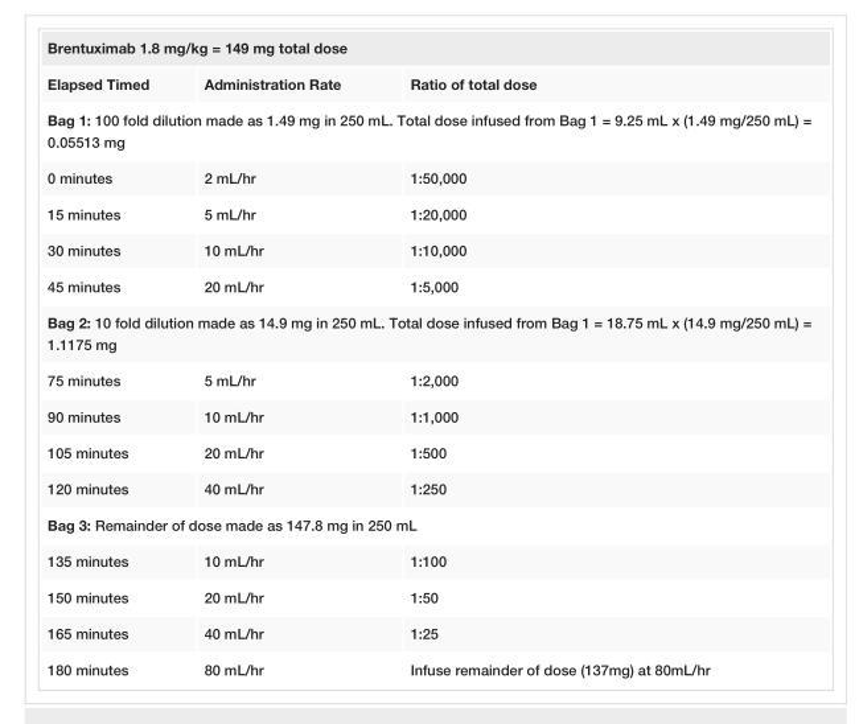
<table><tbody><tr><td colspan="3">Brentuximab 1.8 mg/kg = 149 mg total dose</td></tr><tr><td>Elapsed Timed</td><td>Administration Rate</td><td>Ratio of total dose</td></tr><tr><td colspan="3">Bag 1: 100 fold dilution made as 1.49 mg in 250 mL. Total dose infused from Bag 1 = 9.25 mL x (1.49 mg/250 mL) = 0.05513 mg</td></tr><tr><td>0 minutes</td><td>2 mL/hr</td><td>1:50,000</td></tr><tr><td>15 minutes</td><td>5 mL/hr</td><td>1:20,000</td></tr><tr><td>30 minutes</td><td>10 mL/hr</td><td>1:10,000</td></tr><tr><td>45 minutes</td><td>20 mL/hr</td><td>1:5,000</td></tr><tr><td colspan="3">Bag 2: 10 fold dilution made as 14.9 mg in 250 mL. Total dose infused from Bag 1 = 18.75 mL x (14.9 mg/250 mL) = 1.1175 mg</td></tr><tr><td>75 minutes</td><td>5 mL/hr</td><td>1:2,000</td></tr><tr><td>90 minutes</td><td>10 mL/hr</td><td>1:1,000</td></tr><tr><td>105 minutes</td><td>20 mL/hr</td><td>1:500</td></tr><tr><td>120 minutes</td><td>40 mL/hr</td><td>1:250</td></tr><tr><td colspan="3">Bag 3: Remainder of dose made as 147.8 mg in 250 mL</td></tr><tr><td>135 minutes</td><td>10 mL/hr</td><td>1:100</td></tr><tr><td>150 minutes</td><td>20 mL/hr</td><td>1:50</td></tr><tr><td>165 minutes</td><td>40 mL/hr</td><td>1:25</td></tr><tr><td>180 minutes</td><td>80 mL/hr</td><td>Infuse remainder of dose (137mg) at 80mL/hr</td></tr></tbody></table>